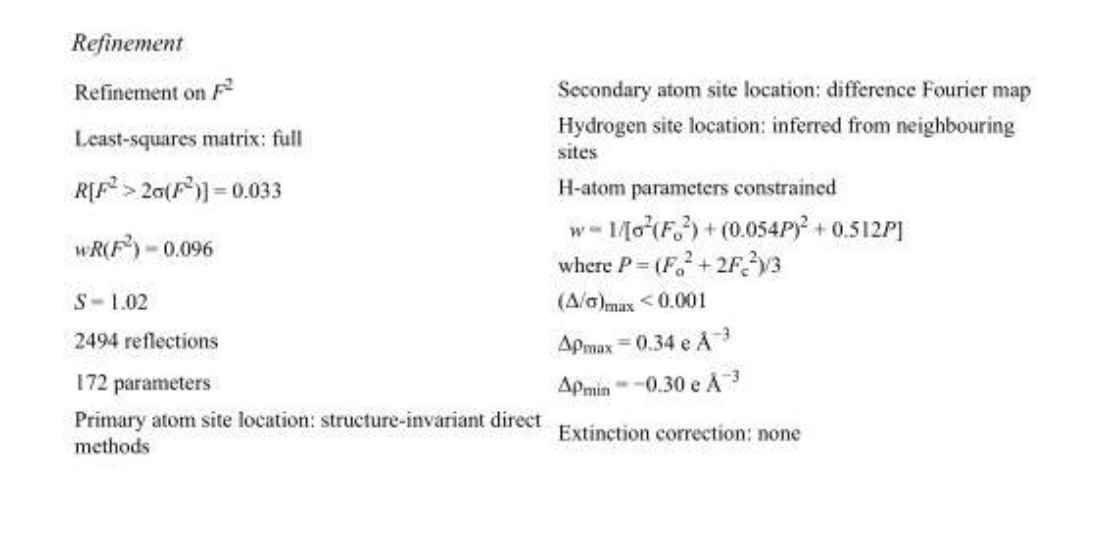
<table><tbody><tr><td>Refinement on F<sup>2</sup></td><td>Secondary atom site location: difference Fourier map</td></tr><tr><td>Least-squares matrix: full</td><td>Hydrogen site location: inferred from neighbouring sites</td></tr><tr><td>R[F<sup>2</sup> &gt; 2σ(F<sup>2</sup>)] = 0.033</td><td>H-atom parameters constrained</td></tr><tr><td>wR(F<sup>2</sup>) = 0.096</td><td>w = 1/[σ<sup>2</sup>(F<sub>o</sub> <sup>2</sup>) + (0.054P)<sup>2</sup> + 0.512P] where P = (F<sub>o</sub> <sup>2</sup> + 2F<sub>c</sub> <sup>2</sup>)/3</td></tr><tr><td>S = 1.02</td><td>(Δ/σ)<sub>max</sub> &lt; 0.001</td></tr><tr><td>2494 reflections</td><td>Δρ<sub>max</sub> = 0.34 e Å<sup>−3</sup></td></tr><tr><td>172 parameters</td><td>Δρ<sub>min</sub> = −0.30 e Å<sup>−3</sup></td></tr><tr><td>Primary atom site location: structure-invariant direct methods</td><td>Extinction correction: none</td></tr></tbody></table>